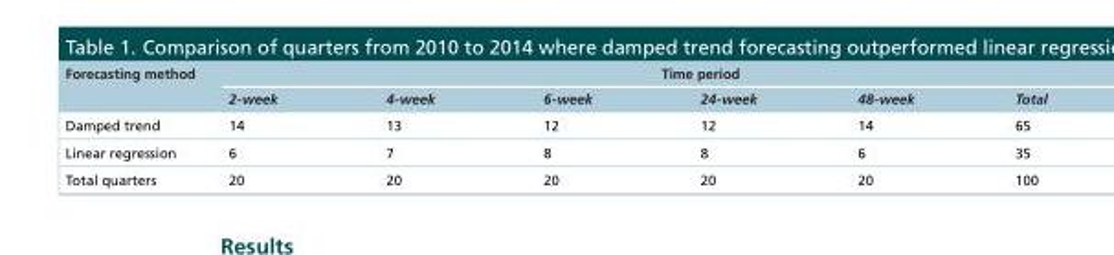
<table><thead><tr><td rowspan="2">Forecasting method</td><td colspan="6">Time period</td></tr><tr><td>2-week</td><td>4-week</td><td>6-week</td><td>24-week</td><td>48-week</td><td>Total</td></tr></thead><tbody><tr><td>Damped trend</td><td>14</td><td>13</td><td>12</td><td>12</td><td>14</td><td>65</td></tr><tr><td>Linear regression</td><td>6</td><td>7</td><td>8</td><td>8</td><td>6</td><td>35</td></tr><tr><td>Total quarters</td><td>20</td><td>20</td><td>20</td><td>20</td><td>20</td><td>100</td></tr></tbody></table>